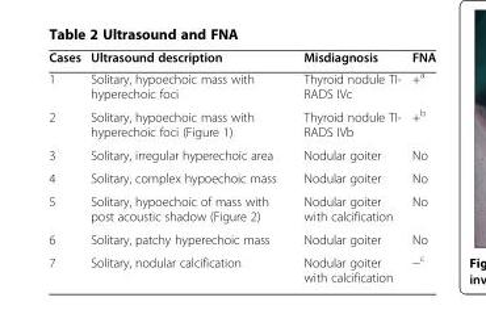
<table><thead><tr><td>Cases</td><td>Ultrasound description</td><td>Misdiagnosis</td><td>FNA</td></tr></thead><tbody><tr><td>1</td><td>Solitary, hypoechoic mass with hyperechoic foci</td><td>Thyroid nodule TI- RADS IVc</td><td>+<sup>a</sup></td></tr><tr><td>2</td><td>Solitary, hypoechoic mass with hyperechoic foci (Figure 1)</td><td>Thyroid nodule TI- RADS IVb</td><td>+<sup>b</sup></td></tr><tr><td>3</td><td>Solitary, irregular hyperechoic area</td><td>Nodular goiter</td><td>No</td></tr><tr><td>4</td><td>Solitary, complex hypoechoic mass</td><td>Nodular goiter</td><td>No</td></tr><tr><td>5</td><td>Solitary, hypoechoic of mass with post acoustic shadow (Figure 2)</td><td>Nodular goiter with calcification</td><td>No</td></tr><tr><td>6</td><td>Solitary, patchy hyperechoic mass</td><td>Nodular goiter</td><td>No</td></tr><tr><td>7</td><td>Solitary, nodular calcification</td><td>Nodular goiter with calcification</td><td>−<sup>c</sup></td></tr></tbody></table>